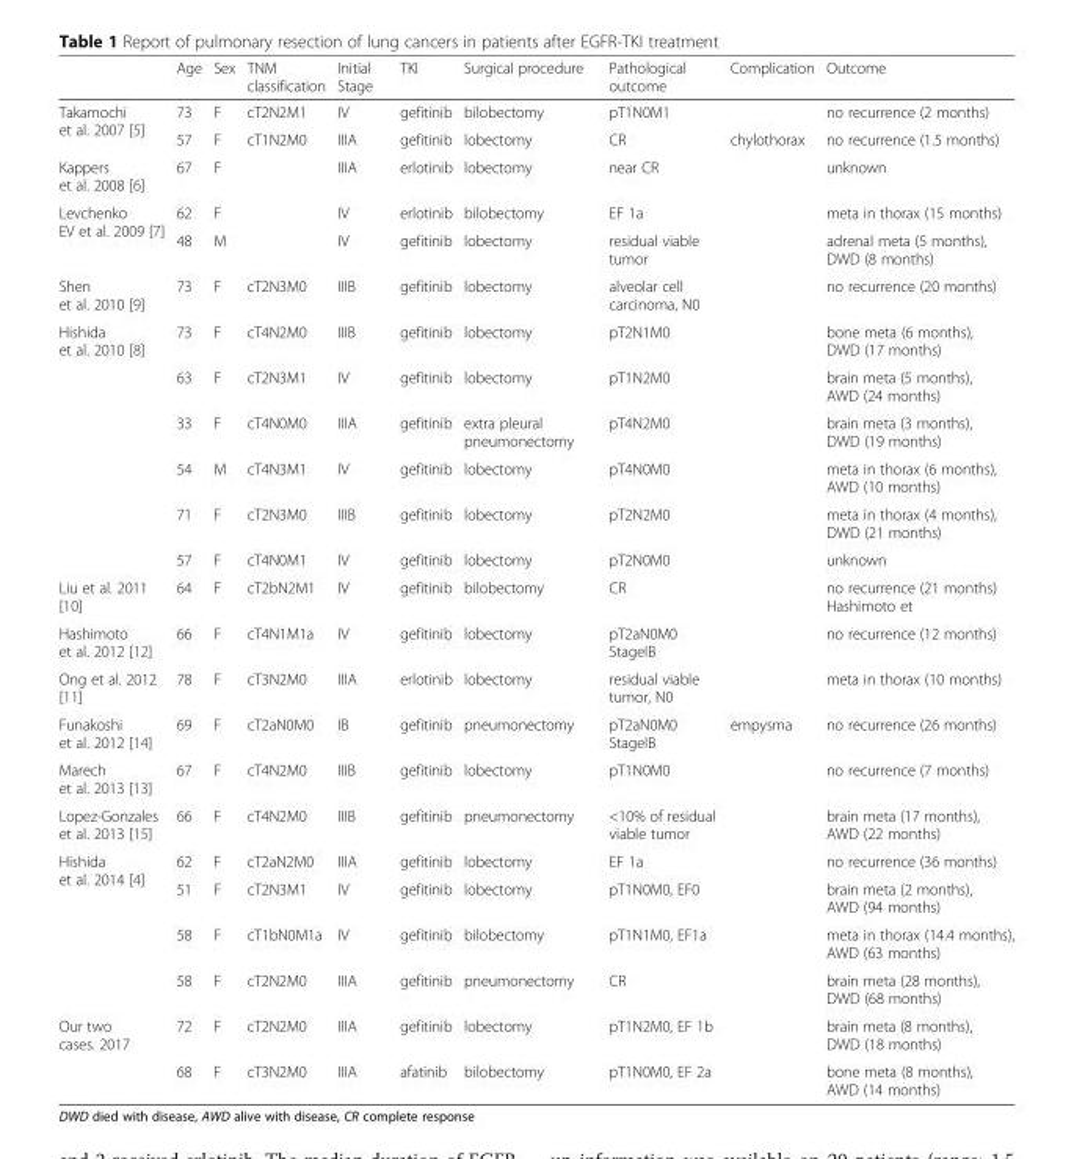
<table><thead><tr><td></td><td>Age</td><td>Sex</td><td>TNM classification</td><td>Initial Stage</td><td>TKI</td><td>Surgical procedure</td><td>Pathological outcome</td><td>Complication</td><td>Outcome</td></tr></thead><tbody><tr><td rowspan="2">Takamochi et al. 2007 [5]</td><td>73</td><td>F</td><td>cT2N2M1</td><td>IV</td><td>gefitinib</td><td>bilobectomy</td><td>pT1N0M1</td><td></td><td>no recurrence (2 months)</td></tr><tr><td>57</td><td>F</td><td>cT1N2M0</td><td>IIIA</td><td>gefitinib</td><td>lobectomy</td><td>CR</td><td>chylothorax</td><td>no recurrence (1.5 months)</td></tr><tr><td>Kappers et al. 2008 [6]</td><td>67</td><td>F</td><td></td><td>IIIA</td><td>erlotinib</td><td>lobectomy</td><td>near CR</td><td></td><td>unknown</td></tr><tr><td rowspan="2">Levchenko EV et al. 2009 [7]</td><td>62</td><td>F</td><td></td><td>IV</td><td>erlotinib</td><td>bilobectomy</td><td>EF 1a</td><td></td><td>meta in thorax (15 months)</td></tr><tr><td>48</td><td>M</td><td></td><td>IV</td><td>gefitinib</td><td>lobectomy</td><td>residual viable tumor</td><td></td><td>adrenal meta (5 months), DWD (8 months)</td></tr><tr><td>Shen et al. 2010 [9]</td><td>73</td><td>F</td><td>cT2N3M0</td><td>IIIB</td><td>gefitinib</td><td>lobectomy</td><td>alveolar cell carcinoma, N0</td><td></td><td>no recurrence (20 months)</td></tr><tr><td rowspan="6">Hishida et al. 2010 [8]</td><td>73</td><td>F</td><td>cT4N2M0</td><td>IIIB</td><td>gefitinib</td><td>lobectomy</td><td>pT2N1M0</td><td></td><td>bone meta (6 months), DWD (17 months)</td></tr><tr><td>63</td><td>F</td><td>cT2N3M1</td><td>IV</td><td>gefitinib</td><td>lobectomy</td><td>pT1N2M0</td><td></td><td>brain meta (5 months), AWD (24 months)</td></tr><tr><td>33</td><td>F</td><td>cT4N0M0</td><td>IIIA</td><td>gefitinib</td><td>extra pleural pneumonectomy</td><td>pT4N2M0</td><td></td><td>brain meta (3 months), DWD (19 months)</td></tr><tr><td>54</td><td>M</td><td>cT4N3M1</td><td>IV</td><td>gefitinib</td><td>lobectomy</td><td>pT4N0M0</td><td></td><td>meta in thorax (6 months), AWD (10 months)</td></tr><tr><td>71</td><td>F</td><td>cT2N3M0</td><td>IIIB</td><td>gefitinib</td><td>lobectomy</td><td>pT2N2M0</td><td></td><td>meta in thorax (4 months), DWD (21 months)</td></tr><tr><td>57</td><td>F</td><td>cT4N0M1</td><td>IV</td><td>gefitinib</td><td>lobectomy</td><td>pT2N0M0</td><td></td><td>unknown</td></tr><tr><td>Liu et al. 2011 [10]</td><td>64</td><td>F</td><td>cT2bN2M1</td><td>IV</td><td>gefitinib</td><td>bilobectomy</td><td>CR</td><td></td><td>no recurrence (21 months) Hashimoto et</td></tr><tr><td>Hashimoto et al. 2012 [12]</td><td>66</td><td>F</td><td>cT4N1M1a</td><td>IV</td><td>gefitinib</td><td>lobectomy</td><td>pT2aN0M0 StageIB</td><td></td><td>no recurrence (12 months)</td></tr><tr><td>Ong et al. 2012 [11]</td><td>78</td><td>F</td><td>cT3N2M0</td><td>IIIA</td><td>erlotinib</td><td>lobectomy</td><td>residual viable tumor, N0</td><td></td><td>meta in thorax (10 months)</td></tr><tr><td>Funakoshi et al. 2012 [14]</td><td>69</td><td>F</td><td>cT2aN0M0</td><td>IB</td><td>gefitinib</td><td>pneumonectomy</td><td>pT2aN0M0 StageIB</td><td>empysma</td><td>no recurrence (26 months)</td></tr><tr><td>Marech et al. 2013 [13]</td><td>67</td><td>F</td><td>cT4N2M0</td><td>IIIB</td><td>gefitinib</td><td>lobectomy</td><td>pT1N0M0</td><td></td><td>no recurrence (7 months)</td></tr><tr><td>Lopez-Gonzales et al. 2013 [15]</td><td>66</td><td>F</td><td>cT4N2M0</td><td>IIIB</td><td>gefitinib</td><td>pneumonectomy</td><td>&lt;10% of residual viable tumor</td><td></td><td>brain meta (17 months), AWD (22 months)</td></tr><tr><td rowspan="4">Hishida et al. 2014 [4]</td><td>62</td><td>F</td><td>cT2aN2M0</td><td>IIIA</td><td>gefitinib</td><td>lobectomy</td><td>EF 1a</td><td></td><td>no recurrence (36 months)</td></tr><tr><td>51</td><td>F</td><td>cT2N3M1</td><td>IV</td><td>gefitinib</td><td>lobectomy</td><td>pT1N0M0, EF0</td><td></td><td>brain meta (2 months), AWD (94 months)</td></tr><tr><td>58</td><td>F</td><td>cT1bN0M1a</td><td>IV</td><td>gefitinib</td><td>bilobectomy</td><td>pT1N1M0, EF1a</td><td></td><td>meta in thorax (14.4 months), AWD (63 months)</td></tr><tr><td>58</td><td>F</td><td>cT2N2M0</td><td>IIIA</td><td>gefitinib</td><td>pneumonectomy</td><td>CR</td><td></td><td>brain meta (28 months), DWD (68 months)</td></tr><tr><td rowspan="2">Our two cases. 2017</td><td>72</td><td>F</td><td>cT2N2M0</td><td>IIIA</td><td>gefitinib</td><td>lobectomy</td><td>pT1N2M0, EF 1b</td><td></td><td>brain meta (8 months), DWD (18 months)</td></tr><tr><td>68</td><td>F</td><td>cT3N2M0</td><td>IIIA</td><td>afatinib</td><td>bilobectomy</td><td>pT1N0M0, EF 2a</td><td></td><td>bone meta (8 months), AWD (14 months)</td></tr></tbody></table>